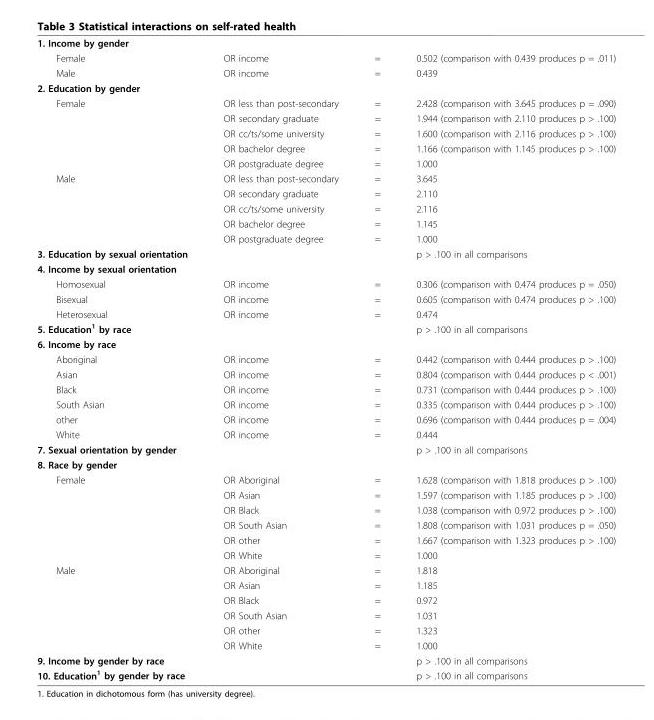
<table><tbody><tr><td colspan="4">1. Income by gender</td></tr><tr><td>Female</td><td>OR income</td><td>=</td><td>0.502 (comparison with 0.439 produces p = .011)</td></tr><tr><td>Male</td><td>OR income</td><td>=</td><td>0.439</td></tr><tr><td colspan="4">2. Education by gender</td></tr><tr><td rowspan="5">Female</td><td>OR less than post-secondary</td><td>=</td><td>2.428 (comparison with 3.645 produces p = .090)</td></tr><tr><td>OR secondary graduate</td><td>=</td><td>1.944 (comparison with 2.110 produces p &gt; .100)</td></tr><tr><td>OR cc/ts/some university</td><td>=</td><td>1.600 (comparison with 2.116 produces p &gt; .100)</td></tr><tr><td>OR bachelor degree</td><td>=</td><td>1.166 (comparison with 1.145 produces p &gt; .100)</td></tr><tr><td>OR postgraduate degree</td><td>=</td><td>1.000</td></tr><tr><td rowspan="5">Male</td><td>OR less than post-secondary</td><td>=</td><td>3.645</td></tr><tr><td>OR secondary graduate</td><td>=</td><td>2.110</td></tr><tr><td>OR cc/ts/some university</td><td>=</td><td>2.116</td></tr><tr><td>OR bachelor degree</td><td>=</td><td>1.145</td></tr><tr><td>OR postgraduate degree</td><td>=</td><td>1.000</td></tr><tr><td>3. Education by sexual orientation</td><td></td><td></td><td>p &gt; .100 in all comparisons</td></tr><tr><td colspan="4">4. Income by sexual orientation</td></tr><tr><td>Homosexual</td><td>OR income</td><td>=</td><td>0.306 (comparison with 0.474 produces p = .050)</td></tr><tr><td>Bisexual</td><td>OR income</td><td>=</td><td>0.605 (comparison with 0.474 produces p &gt; .100)</td></tr><tr><td>Heterosexual</td><td>OR income</td><td>=</td><td>0.474</td></tr><tr><td>5. Education<sup>1</sup> by race</td><td></td><td></td><td>p &gt; .100 in all comparisons</td></tr><tr><td colspan="4">6. Income by race</td></tr><tr><td>Aboriginal</td><td>OR income</td><td>=</td><td>0.442 (comparison with 0.444 produces p &gt; .100)</td></tr><tr><td>Asian</td><td>OR income</td><td>=</td><td>0.804 (comparison with 0.444 produces p &lt; .001)</td></tr><tr><td>Black</td><td>OR income</td><td>=</td><td>0.731 (comparison with 0.444 produces p &gt; .100)</td></tr><tr><td>South Asian</td><td>OR income</td><td>=</td><td>0.335 (comparison with 0.444 produces p &gt; .100)</td></tr><tr><td>other</td><td>OR income</td><td>=</td><td>0.696 (comparison with 0.444 produces p = .004)</td></tr><tr><td>White</td><td>OR income</td><td>=</td><td>0.444</td></tr><tr><td>7. Sexual orientation by gender</td><td></td><td></td><td>p &gt; .100 in all comparisons</td></tr><tr><td colspan="4">8. Race by gender</td></tr><tr><td rowspan="6">Female</td><td>OR Aboriginal</td><td>=</td><td>1.628 (comparison with 1.818 produces p &gt; .100)</td></tr><tr><td>OR Asian</td><td>=</td><td>1.597 (comparison with 1.185 produces p &gt; .100)</td></tr><tr><td>OR Black</td><td>=</td><td>1.038 (comparison with 0.972 produces p &gt; .100)</td></tr><tr><td>OR South Asian</td><td>=</td><td>1.808 (comparison with 1.031 produces p = .050)</td></tr><tr><td>OR other</td><td>=</td><td>1.667 (comparison with 1.323 produces p &gt; .100)</td></tr><tr><td>OR White</td><td>=</td><td>1.000</td></tr><tr><td rowspan="6">Male</td><td>OR Aboriginal</td><td>=</td><td>1.818</td></tr><tr><td>OR Asian</td><td>=</td><td>1.185</td></tr><tr><td>OR Black</td><td>=</td><td>0.972</td></tr><tr><td>OR South Asian</td><td>=</td><td>1.031</td></tr><tr><td>OR other</td><td>=</td><td>1.323</td></tr><tr><td>OR White</td><td>=</td><td>1.000</td></tr><tr><td>9. Income by gender by race</td><td></td><td></td><td>p &gt; .100 in all comparisons</td></tr><tr><td>10. Education<sup>1</sup> by gender by race</td><td></td><td></td><td>p &gt; .100 in all comparisons</td></tr></tbody></table>